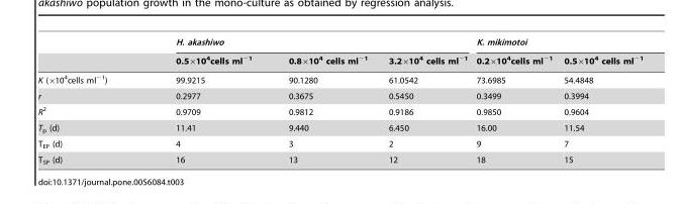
<table><thead><tr><td rowspan="2"></td><td colspan="3">H. akashiwo</td><td colspan="2">K. mikimotoi</td></tr><tr><td>0.5×10<sup>4</sup>cells ml<sup>−1</sup></td><td>0.8×10<sup>4</sup> cells ml<sup>−1</sup></td><td>3.2×10<sup>4</sup> cells ml<sup>−1</sup></td><td>0.2×10<sup>4</sup>cells ml<sup>−1</sup></td><td>0.5×10<sup>4</sup> cells ml<sup>−1</sup></td></tr></thead><tbody><tr><td>K (×10<sup>4</sup>cells ml<sup>−1</sup>)</td><td>99.9215</td><td>90.1280</td><td>61.0542</td><td>73.6985</td><td>54.4848</td></tr><tr><td>r</td><td>0.2977</td><td>0.3675</td><td>0.5450</td><td>0.3499</td><td>0.3994</td></tr><tr><td>R<sup>2</sup></td><td>0.9709</td><td>0.9812</td><td>0.9186</td><td>0.9850</td><td>0.9604</td></tr><tr><td>T<sub>p</sub> (d)</td><td>11.41</td><td>9.440</td><td>6.450</td><td>16.00</td><td>11.54</td></tr><tr><td>T<sub>EP</sub> (d)</td><td>4</td><td>3</td><td>2</td><td>9</td><td>7</td></tr><tr><td>T<sub>SP</sub> (d)</td><td>16</td><td>13</td><td>12</td><td>18</td><td>15</td></tr></tbody></table>